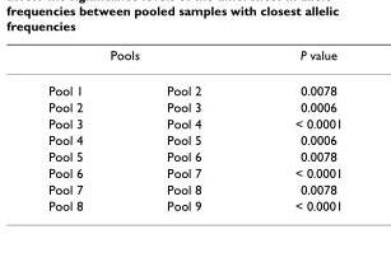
<table><thead><tr><td colspan="2">Pools</td><td rowspan="2">P value 0.0078</td></tr><tr><td>Pool 1</td><td>Pool 2</td></tr></thead><tbody><tr><td>Pool 2</td><td>Pool 3</td><td>0.0006</td></tr><tr><td>Pool 3</td><td>Pool 4</td><td>&lt; 0.0001</td></tr><tr><td>Pool 4</td><td>Pool 5</td><td>0.0006</td></tr><tr><td>Pool 5</td><td>Pool 6</td><td>0.0078</td></tr><tr><td>Pool 6</td><td>Pool 7</td><td>&lt; 0.0001</td></tr><tr><td>Pool 7</td><td>Pool 8</td><td>0.0078</td></tr><tr><td>Pool 8</td><td>Pool 9</td><td>&lt; 0.0001</td></tr></tbody></table>